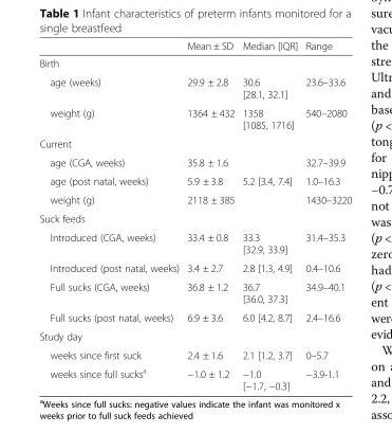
<table><thead><tr><td></td><td>Mean ± SD</td><td>Median [IQR]</td><td>Range</td></tr></thead><tbody><tr><td colspan="4">Birth</td></tr><tr><td>age (weeks)</td><td>29.9 ± 2.8</td><td>30.6 [28.1, 32.1]</td><td>23.6–33.6</td></tr><tr><td>weight (g)</td><td>1364 ± 432</td><td>1358 [1085, 1716]</td><td>540–2080</td></tr><tr><td colspan="4">Current</td></tr><tr><td>age (CGA, weeks)</td><td>35.8 ± 1.6</td><td></td><td>32.7–39.9</td></tr><tr><td>age (post natal, weeks)</td><td>5.9 ± 3.8</td><td>5.2 [3.4, 7.4]</td><td>1.0–16.3</td></tr><tr><td>weight (g)</td><td>2118 ± 385</td><td></td><td>1430–3220</td></tr><tr><td colspan="4">Suck feeds</td></tr><tr><td>Introduced (CGA, weeks)</td><td>33.4 ± 0.8</td><td>33.3 [32.9, 33.9]</td><td>31.4–35.3</td></tr><tr><td>Introduced (post natal, weeks)</td><td>3.4 ± 2.7</td><td>2.8 [1.3, 4.9]</td><td>0.4–10.6</td></tr><tr><td>Full sucks (CGA, weeks)</td><td>36.8 ± 1.2</td><td>36.7 [36.0, 37.3]</td><td>34.9–40.1</td></tr><tr><td>Full sucks (post natal, weeks)</td><td>6.9 ± 3.6</td><td>6.0 [4.2, 8.7]</td><td>2.4–16.6</td></tr><tr><td colspan="4">Study day</td></tr><tr><td>weeks since first suck</td><td>2.4 ± 1.6</td><td>2.1 [1.2, 3.7]</td><td>0–5.7</td></tr><tr><td>weeks since full sucks<sup>a</sup></td><td>−1.0 ± 1.2</td><td>−1.0 [−1.7, −0.3]</td><td>−3.9-1.1</td></tr></tbody></table>